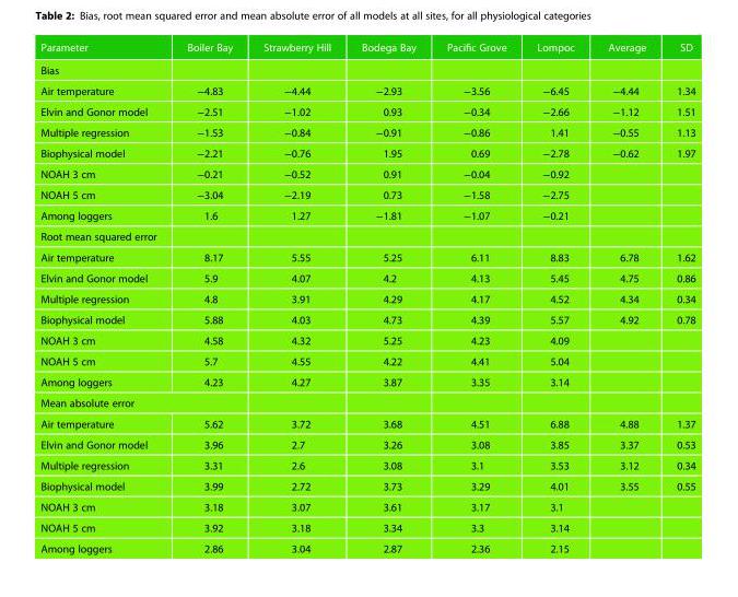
<table><thead><tr><td>Parameter</td><td>Boiler Bay</td><td>Strawberry Hill</td><td>Bodega Bay</td><td>Pacific Grove</td><td>Lompoc</td><td>Average</td><td>SD</td></tr></thead><tbody><tr><td colspan="8">Bias</td></tr><tr><td>Air temperature</td><td>−4.83</td><td>−4.44</td><td>−2.93</td><td>−3.56</td><td>−6.45</td><td>−4.44</td><td>1.34</td></tr><tr><td>Elvin and Gonor model</td><td>−2.51</td><td>−1.02</td><td>0.93</td><td>−0.34</td><td>−2.66</td><td>−1.12</td><td>1.51</td></tr><tr><td>Multiple regression</td><td>−1.53</td><td>−0.84</td><td>−0.91</td><td>−0.86</td><td>1.41</td><td>−0.55</td><td>1.13</td></tr><tr><td>Biophysical model</td><td>−2.21</td><td>−0.76</td><td>1.95</td><td>0.69</td><td>−2.78</td><td>−0.62</td><td>1.97</td></tr><tr><td>NOAH 3 cm</td><td>−0.21</td><td>−0.52</td><td>0.91</td><td>−0.04</td><td>−0.92</td><td></td><td></td></tr><tr><td>NOAH 5 cm</td><td>−3.04</td><td>−2.19</td><td>0.73</td><td>−1.58</td><td>−2.75</td><td></td><td></td></tr><tr><td>Among loggers</td><td>1.6</td><td>1.27</td><td>−1.81</td><td>−1.07</td><td>−0.21</td><td></td><td></td></tr><tr><td colspan="8">Root mean squared error</td></tr><tr><td>Air temperature</td><td>8.17</td><td>5.55</td><td>5.25</td><td>6.11</td><td>8.83</td><td>6.78</td><td>1.62</td></tr><tr><td>Elvin and Gonor model</td><td>5.9</td><td>4.07</td><td>4.2</td><td>4.13</td><td>5.45</td><td>4.75</td><td>0.86</td></tr><tr><td>Multiple regression</td><td>4.8</td><td>3.91</td><td>4.29</td><td>4.17</td><td>4.52</td><td>4.34</td><td>0.34</td></tr><tr><td>Biophysical model</td><td>5.88</td><td>4.03</td><td>4.73</td><td>4.39</td><td>5.57</td><td>4.92</td><td>0.78</td></tr><tr><td>NOAH 3 cm</td><td>4.58</td><td>4.32</td><td>5.25</td><td>4.23</td><td>4.09</td><td></td><td></td></tr><tr><td>NOAH 5 cm</td><td>5.7</td><td>4.55</td><td>4.22</td><td>4.41</td><td>5.04</td><td></td><td></td></tr><tr><td>Among loggers</td><td>4.23</td><td>4.27</td><td>3.87</td><td>3.35</td><td>3.14</td><td></td><td></td></tr><tr><td colspan="8">Mean absolute error</td></tr><tr><td>Air temperature</td><td>5.62</td><td>3.72</td><td>3.68</td><td>4.51</td><td>6.88</td><td>4.88</td><td>1.37</td></tr><tr><td>Elvin and Gonor model</td><td>3.96</td><td>2.7</td><td>3.26</td><td>3.08</td><td>3.85</td><td>3.37</td><td>0.53</td></tr><tr><td>Multiple regression</td><td>3.31</td><td>2.6</td><td>3.08</td><td>3.1</td><td>3.53</td><td>3.12</td><td>0.34</td></tr><tr><td>Biophysical model</td><td>3.99</td><td>2.72</td><td>3.73</td><td>3.29</td><td>4.01</td><td>3.55</td><td>0.55</td></tr><tr><td>NOAH 3 cm</td><td>3.18</td><td>3.07</td><td>3.61</td><td>3.17</td><td>3.1</td><td></td><td></td></tr><tr><td>NOAH 5 cm</td><td>3.92</td><td>3.18</td><td>3.34</td><td>3.3</td><td>3.14</td><td></td><td></td></tr><tr><td>Among loggers</td><td>2.86</td><td>3.04</td><td>2.87</td><td>2.36</td><td>2.15</td><td></td><td></td></tr></tbody></table>